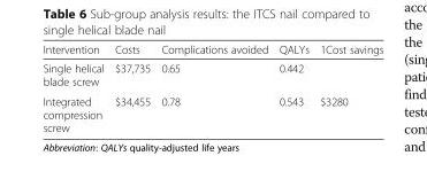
<table><thead><tr><td>Intervention</td><td>Costs</td><td>Complications avoided</td><td>QALYs</td><td>1Cost savings</td></tr></thead><tbody><tr><td>Single helical blade screw</td><td>$37,735</td><td>0.65</td><td>0.442</td><td></td></tr><tr><td>Integrated compression screw</td><td>$34,455</td><td>0.78</td><td>0.543</td><td>$3280</td></tr></tbody></table>